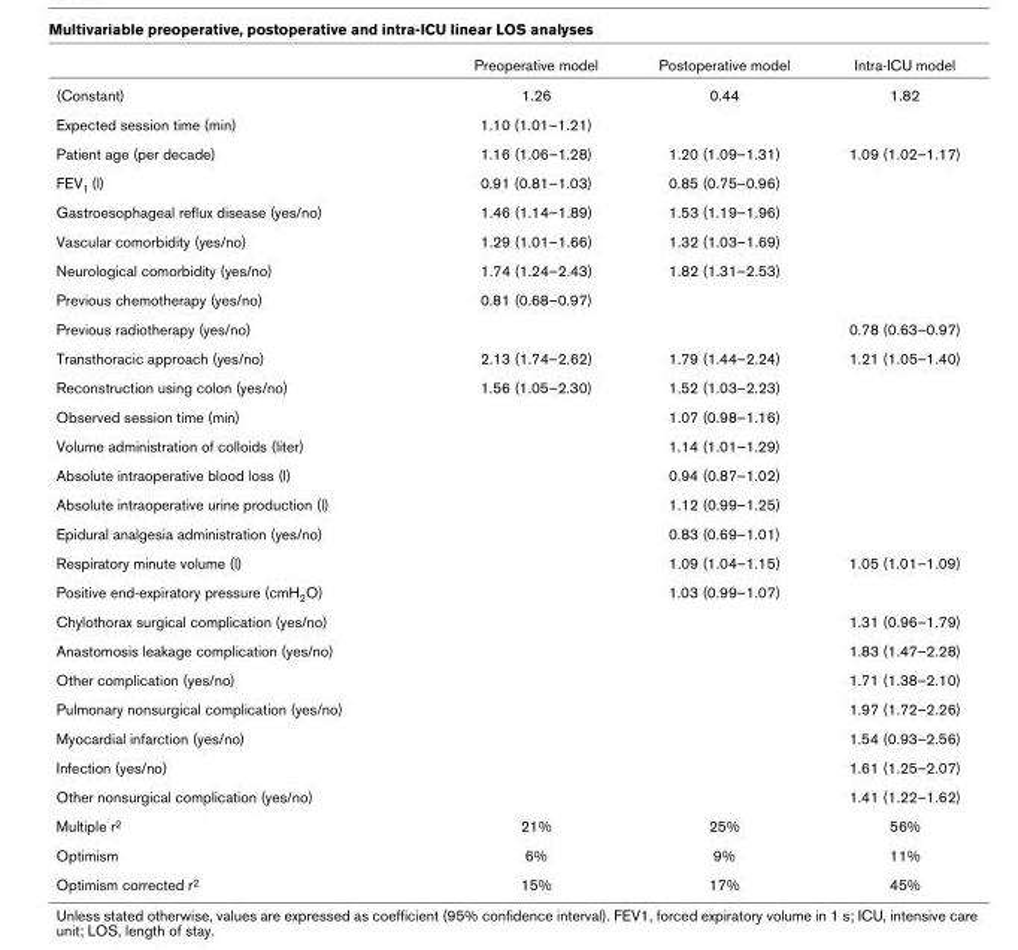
<table><thead><tr><td></td><td>Preoperative model</td><td>Postoperative model</td><td>Intra-ICU model</td></tr></thead><tbody><tr><td>(Constant)</td><td>1.26</td><td>0.44</td><td>1.82</td></tr><tr><td>Expected session time (min)</td><td>1.10 (1.01–1.21)</td><td></td><td></td></tr><tr><td>Patient age (per decade)</td><td>1.16 (1.06–1.28)</td><td>1.20 (1.09–1.31)</td><td>1.09 (1.02–1.17)</td></tr><tr><td>FEV<sub>1</sub> (l)</td><td>0.91 (0.81–1.03)</td><td>0.85 (0.75–0.96)</td><td></td></tr><tr><td>Gastroesophageal reflux disease (yes/no)</td><td>1.46 (1.14–1.89)</td><td>1.53 (1.19–1.96)</td><td></td></tr><tr><td>Vascular comorbidity (yes/no)</td><td>1.29 (1.01–1.66)</td><td>1.32 (1.03–1.69)</td><td></td></tr><tr><td>Neurological comorbidity (yes/no)</td><td>1.74 (1.24–2.43)</td><td>1.82 (1.31–2.53)</td><td></td></tr><tr><td>Previous chemotherapy (yes/no)</td><td>0.81 (0.68–0.97)</td><td></td><td></td></tr><tr><td>Previous radiotherapy (yes/no)</td><td></td><td></td><td>0.78 (0.63–0.97)</td></tr><tr><td>Transthoracic approach (yes/no)</td><td>2.13 (1.74–2.62)</td><td>1.79 (1.44–2.24)</td><td>1.21 (1.05–1.40)</td></tr><tr><td>Reconstruction using colon (yes/no)</td><td>1.56 (1.05–2.30)</td><td>1.52 (1.03–2.23)</td><td></td></tr><tr><td>Observed session time (min)</td><td></td><td>1.07 (0.98–1.16)</td><td></td></tr><tr><td>Volume administration of colloids (liter)</td><td></td><td>1.14 (1.01–1.29)</td><td></td></tr><tr><td>Absolute intraoperative blood loss (l)</td><td></td><td>0.94 (0.87–1.02)</td><td></td></tr><tr><td>Absolute intraoperative urine production (l)</td><td></td><td>1.12 (0.99–1.25)</td><td></td></tr><tr><td>Epidural analgesia administration (yes/no)</td><td></td><td>0.83 (0.69–1.01)</td><td></td></tr><tr><td>Respiratory minute volume (l)</td><td></td><td>1.09 (1.04–1.15)</td><td>1.05 (1.01–1.09)</td></tr><tr><td>Positive end-expiratory pressure (cmH<sub>2</sub>O)</td><td></td><td>1.03 (0.99–1.07)</td><td></td></tr><tr><td>Chylothorax surgical complication (yes/no)</td><td></td><td></td><td>1.31 (0.96–1.79)</td></tr><tr><td>Anastomosis leakage complication (yes/no)</td><td></td><td></td><td>1.83 (1.47–2.28)</td></tr><tr><td>Other complication (yes/no)</td><td></td><td></td><td>1.71 (1.38–2.10)</td></tr><tr><td>Pulmonary nonsurgical complication (yes/no)</td><td></td><td></td><td>1.97 (1.72–2.26)</td></tr><tr><td>Myocardial infarction (yes/no)</td><td></td><td></td><td>1.54 (0.93–2.56)</td></tr><tr><td>Infection (yes/no)</td><td></td><td></td><td>1.61 (1.25–2.07)</td></tr><tr><td>Other nonsurgical complication (yes/no)</td><td></td><td></td><td>1.41 (1.22–1.62)</td></tr><tr><td>Multiple r<sup>2</sup></td><td>21%</td><td>25%</td><td>56%</td></tr><tr><td>Optimism</td><td>6%</td><td>9%</td><td>11%</td></tr><tr><td>Optimism corrected r<sup>2</sup></td><td>15%</td><td>17%</td><td>45%</td></tr></tbody></table>